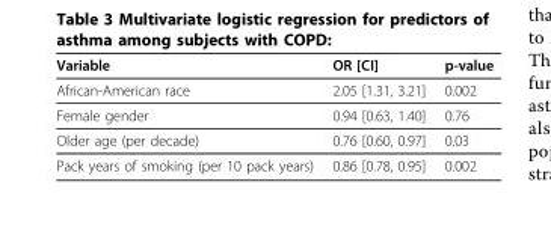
<table><thead><tr><td>Variable</td><td>OR [CI]</td><td>p-value</td></tr></thead><tbody><tr><td>African-American race</td><td>2.05 [1.31, 3.21]</td><td>0.002</td></tr><tr><td>Female gender</td><td>0.94 [0.63, 1.40]</td><td>0.76</td></tr><tr><td>Older age (per decade)</td><td>0.76 [0.60, 0.97]</td><td>0.03</td></tr><tr><td>Pack years of smoking (per 10 pack years)</td><td>0.86 [0.78, 0.95]</td><td>0.002</td></tr></tbody></table>